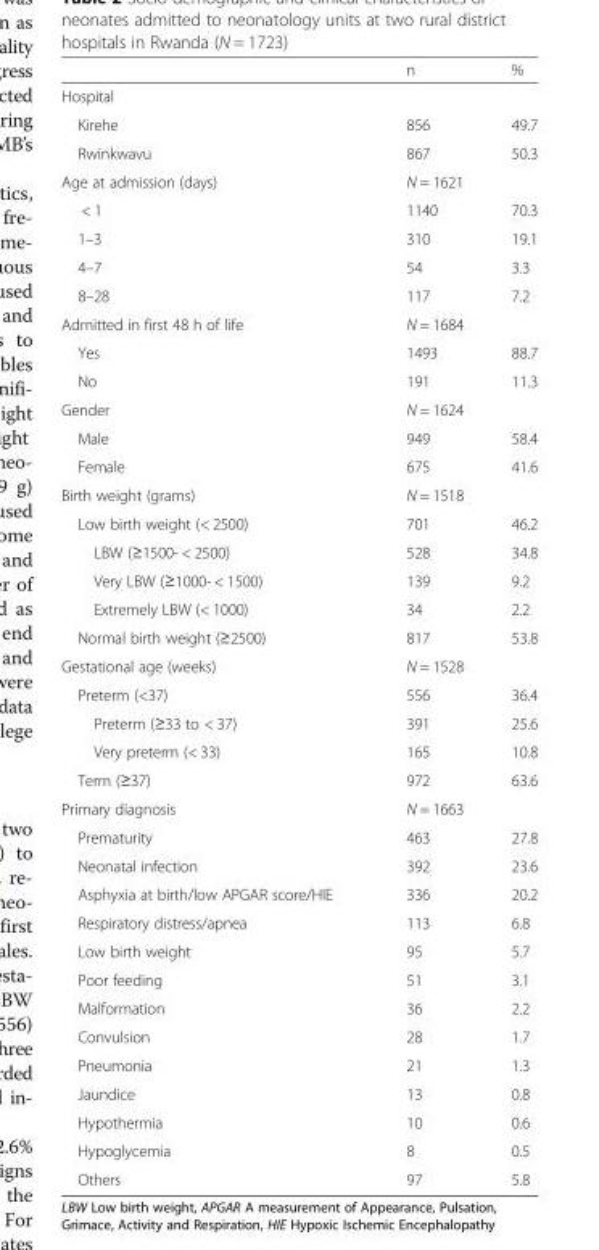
<table><thead><tr><td></td><td>n</td><td>%</td></tr></thead><tbody><tr><td colspan="3">Hospital</td></tr><tr><td>Kirehe</td><td>856</td><td>49.7</td></tr><tr><td>Rwinkwavu</td><td>867</td><td>50.3</td></tr><tr><td>Age at admission (days)</td><td colspan="2">N = 1621</td></tr><tr><td>&lt; 1</td><td>1140</td><td>70.3</td></tr><tr><td>1–3</td><td>310</td><td>19.1</td></tr><tr><td>4–7</td><td>54</td><td>3.3</td></tr><tr><td>8–28</td><td>117</td><td>7.2</td></tr><tr><td>Admitted in first 48 h of life</td><td colspan="2">N = 1684</td></tr><tr><td>Yes</td><td>1493</td><td>88.7</td></tr><tr><td>No</td><td>191</td><td>11.3</td></tr><tr><td>Gender</td><td colspan="2">N = 1624</td></tr><tr><td>Male</td><td>949</td><td>58.4</td></tr><tr><td>Female</td><td>675</td><td>41.6</td></tr><tr><td>Birth weight (grams)</td><td colspan="2">N = 1518</td></tr><tr><td>Low birth weight (&lt; 2500)</td><td>701</td><td>46.2</td></tr><tr><td>LBW (≥1500- &lt; 2500)</td><td>528</td><td>34.8</td></tr><tr><td>Very LBW (≥1000- &lt; 1500)</td><td>139</td><td>9.2</td></tr><tr><td>Extremely LBW (&lt; 1000)</td><td>34</td><td>2.2</td></tr><tr><td>Normal birth weight (≥2500)</td><td>817</td><td>53.8</td></tr><tr><td>Gestational age (weeks)</td><td colspan="2">N = 1528</td></tr><tr><td>Preterm (&lt;37)</td><td>556</td><td>36.4</td></tr><tr><td>Preterm (≥33 to &lt; 37)</td><td>391</td><td>25.6</td></tr><tr><td>Very preterm (&lt; 33)</td><td>165</td><td>10.8</td></tr><tr><td>Term (≥37)</td><td>972</td><td>63.6</td></tr><tr><td>Primary diagnosis</td><td colspan="2">N = 1663</td></tr><tr><td>Prematurity</td><td>463</td><td>27.8</td></tr><tr><td>Neonatal infection</td><td>392</td><td>23.6</td></tr><tr><td>Asphyxia at birth/low APGAR score/HIE</td><td>336</td><td>20.2</td></tr><tr><td>Respiratory distress/apnea</td><td>113</td><td>6.8</td></tr><tr><td>Low birth weight</td><td>95</td><td>5.7</td></tr><tr><td>Poor feeding</td><td>51</td><td>3.1</td></tr><tr><td>Malformation</td><td>36</td><td>2.2</td></tr><tr><td>Convulsion</td><td>28</td><td>1.7</td></tr><tr><td>Pneumonia</td><td>21</td><td>1.3</td></tr><tr><td>Jaundice</td><td>13</td><td>0.8</td></tr><tr><td>Hypothermia</td><td>10</td><td>0.6</td></tr><tr><td>Hypoglycemia</td><td>8</td><td>0.5</td></tr><tr><td>Others</td><td>97</td><td>5.8</td></tr></tbody></table>